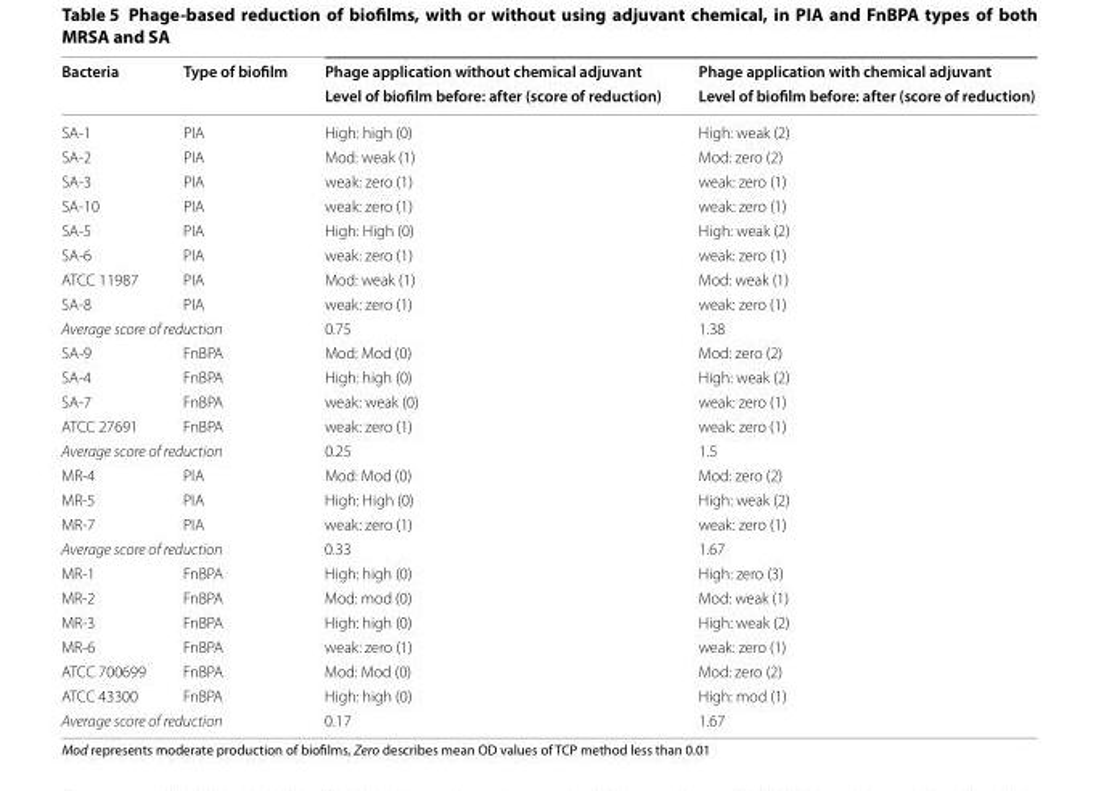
<table><thead><tr><td rowspan="2">Bacteria</td><td rowspan="2">Type of biofilm</td><td rowspan="2">Phage application without chemical adjuvant Level of biofilm before: after (score of reduction)</td><td rowspan="2">Phage application with chemical adjuvant Level of biofilm before: after (score of reduction)</td></tr><tr></tr></thead><tbody><tr><td>SA-1</td><td>PIA</td><td>High: high (0)</td><td>High: weak (2)</td></tr><tr><td>SA-2</td><td>PIA</td><td>Mod: weak (1)</td><td>Mod: zero (2)</td></tr><tr><td>SA-3</td><td>PIA</td><td>weak: zero (1)</td><td>weak: zero (1)</td></tr><tr><td>SA-10</td><td>PIA</td><td>weak: zero (1)</td><td>weak: zero (1)</td></tr><tr><td>SA-5</td><td>PIA</td><td>High: High (0)</td><td>High: weak (2)</td></tr><tr><td>SA-6</td><td>PIA</td><td>weak: zero (1)</td><td>weak: zero (1)</td></tr><tr><td>ATCC 11987</td><td>PIA</td><td>Mod: weak (1)</td><td>Mod: weak (1)</td></tr><tr><td>SA-8</td><td>PIA</td><td>weak: zero (1)</td><td>weak: zero (1)</td></tr><tr><td colspan="2">Average score of reduction</td><td>0.75</td><td>1.38</td></tr><tr><td>SA-9</td><td>FnBPA</td><td>Mod: Mod (0)</td><td>Mod: zero (2)</td></tr><tr><td>SA-4</td><td>FnBPA</td><td>High: high (0)</td><td>High: weak (2)</td></tr><tr><td>SA-7</td><td>FnBPA</td><td>weak: weak (0)</td><td>weak: zero (1)</td></tr><tr><td>ATCC 27691</td><td>FnBPA</td><td>weak: zero (1)</td><td>weak: zero (1)</td></tr><tr><td colspan="2">Average score of reduction</td><td>0.25</td><td>1.5</td></tr><tr><td>MR-4</td><td>PIA</td><td>Mod: Mod (0)</td><td>Mod: zero (2)</td></tr><tr><td>MR-5</td><td>PIA</td><td>High: High (0)</td><td>High: weak (2)</td></tr><tr><td>MR-7</td><td>PIA</td><td>weak: zero (1)</td><td>weak: zero (1)</td></tr><tr><td colspan="2">Average score of reduction</td><td>0.33</td><td>1.67</td></tr><tr><td>MR-1</td><td>FnBPA</td><td>High: high (0)</td><td>High: zero (3)</td></tr><tr><td>MR-2</td><td>FnBPA</td><td>Mod: mod (0)</td><td>Mod: weak (1)</td></tr><tr><td>MR-3</td><td>FnBPA</td><td>High: high (0)</td><td>High: weak (2)</td></tr><tr><td>MR-6</td><td>FnBPA</td><td>weak: zero (1)</td><td>weak: zero (1)</td></tr><tr><td>ATCC 700699</td><td>FnBPA</td><td>Mod: Mod (0)</td><td>Mod: zero (2)</td></tr><tr><td>ATCC 43300</td><td>FnBPA</td><td>High: high (0)</td><td>High: mod (1)</td></tr><tr><td colspan="2">Average score of reduction</td><td>0.17</td><td>1.67</td></tr></tbody></table>